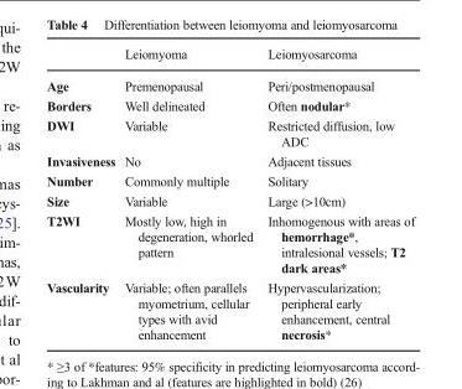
<table><thead><tr><td></td><td>Leiomyoma</td><td>Leiomyosarcoma</td></tr></thead><tbody><tr><td>Age</td><td>Premenopausal</td><td>Peri/postmenopausal</td></tr><tr><td>Borders</td><td>Well delineated</td><td>Often nodular*</td></tr><tr><td>DWI</td><td>Variable</td><td>Restricted diffusion, low ADC</td></tr><tr><td>Invasiveness</td><td>No</td><td>Adjacent tissues</td></tr><tr><td>Number</td><td>Commonly multiple</td><td>Solitary</td></tr><tr><td>Size</td><td>Variable</td><td>Large (&gt;10cm)</td></tr><tr><td>T2WI</td><td>Mostly low, high in degeneration, whorled pattern</td><td>Inhomogenous with areas of hemorrhage*, intralesional vessels; T2 dark areas*</td></tr><tr><td>Vascularity</td><td>Variable; often parallels myometrium, cellular types with avid enhancement</td><td>Hypervascularization; peripheral early enhancement, central necrosis*</td></tr></tbody></table>